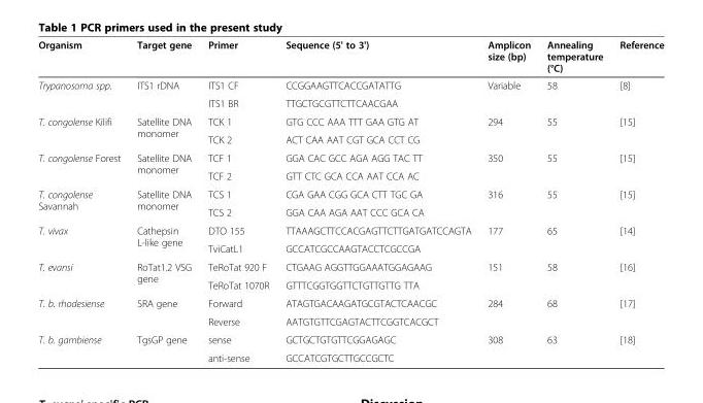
<table><thead><tr><td>Organism</td><td>Target gene</td><td>Primer</td><td>Sequence (5&#x27; to 3&#x27;)</td><td>Amplicon size (bp)</td><td>Annealing temperature (°C)</td><td>Reference</td></tr></thead><tbody><tr><td rowspan="2">Trypanosoma spp.</td><td rowspan="2">ITS1 rDNA</td><td>ITS1 CF</td><td>CCGGAAGTTCACCGATATTG</td><td rowspan="2">Variable</td><td rowspan="2">58</td><td rowspan="2">[8]</td></tr><tr><td>ITS1 BR</td><td>TTGCTGCGTTCTTCAACGAA</td></tr><tr><td rowspan="2">T. congolense Kilifi</td><td rowspan="2">Satellite DNA monomer</td><td>TCK 1</td><td>GTG CCC AAA TTT GAA GTG AT</td><td rowspan="2">294</td><td rowspan="2">55</td><td rowspan="2">[15]</td></tr><tr><td>TCK 2</td><td>ACT CAA AAT CGT GCA CCT CG</td></tr><tr><td rowspan="2">T. congolense Forest</td><td rowspan="2">Satellite DNA monomer</td><td>TCF 1</td><td>GGA CAC GCC AGA AGG TAC TT</td><td rowspan="2">350</td><td rowspan="2">55</td><td rowspan="2">[15]</td></tr><tr><td>TCF 2</td><td>GTT CTC GCA CCA AAT CCA AC</td></tr><tr><td rowspan="2">T. congolense Savannah</td><td rowspan="2">Satellite DNA monomer</td><td>TCS 1</td><td>CGA GAA CGG GCA CTT TGC GA</td><td rowspan="2">316</td><td rowspan="2">55</td><td rowspan="2">[15]</td></tr><tr><td>TCS 2</td><td>GGA CAA AGA AAT CCC GCA CA</td></tr><tr><td rowspan="2">T. vivax</td><td rowspan="2">Cathepsin L-like gene</td><td>DTO 155</td><td>TTAAAGCTTCCACGAGTTCTTGATGATCCAGTA</td><td rowspan="2">177</td><td rowspan="2">65</td><td rowspan="2">[14]</td></tr><tr><td>TviCatL1</td><td>GCCATCGCCAAGTACCTCGCCGA</td></tr><tr><td rowspan="2">T. evansi</td><td rowspan="2">RoTat1.2 VSG gene</td><td>TeRoTat 920 F</td><td>CTGAAG AGGTTGGAAATGGAGAAG</td><td rowspan="2">151</td><td rowspan="2">58</td><td rowspan="2">[16]</td></tr><tr><td>TeRoTat 1070R</td><td>GTTTCGGTGGTTCTGTTGTTG TTA</td></tr><tr><td rowspan="2">T. b. rhodesiense</td><td rowspan="2">SRA gene</td><td>Forward</td><td>ATAGTGACAAGATGCGTACTCAACGC</td><td rowspan="2">284</td><td rowspan="2">68</td><td rowspan="2">[17]</td></tr><tr><td>Reverse</td><td>AATGTGTTCGAGTACTTCGGTCACGCT</td></tr><tr><td rowspan="2">T. b. gambiense</td><td>TgsGP gene</td><td>sense</td><td>GCTGCTGTGTTCGGAGAGC</td><td>308</td><td>63</td><td>[18]</td></tr><tr><td></td><td>anti-sense</td><td>GCCATCGTGCTTGCCGCTC</td><td></td><td></td><td></td></tr></tbody></table>